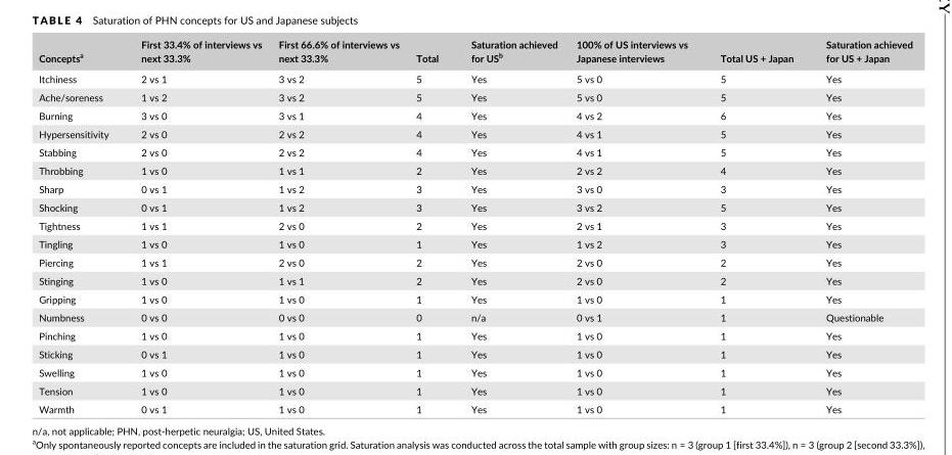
<table><thead><tr><td>Concepts<sup>a</sup></td><td>First 33.4% of interviews vs next 33.3%</td><td>First 66.6% of interviews vs next 33.3%</td><td>Total</td><td>Saturation achieved for US<sup>b</sup></td><td>100% of US interviews vs Japanese interviews</td><td>Total US + Japan</td><td>Saturation achieved for US + Japan</td></tr></thead><tbody><tr><td>Itchiness</td><td>2 vs 1</td><td>3 vs 2</td><td>5</td><td>Yes</td><td>5 vs 0</td><td>5</td><td>Yes</td></tr><tr><td>Ache/soreness</td><td>1 vs 2</td><td>3 vs 2</td><td>5</td><td>Yes</td><td>5 vs 0</td><td>5</td><td>Yes</td></tr><tr><td>Burning</td><td>3 vs 0</td><td>3 vs 1</td><td>4</td><td>Yes</td><td>4 vs 2</td><td>6</td><td>Yes</td></tr><tr><td>Hypersensitivity</td><td>2 vs 0</td><td>2 vs 2</td><td>4</td><td>Yes</td><td>4 vs 1</td><td>5</td><td>Yes</td></tr><tr><td>Stabbing</td><td>2 vs 0</td><td>2 vs 2</td><td>4</td><td>Yes</td><td>4 vs 1</td><td>5</td><td>Yes</td></tr><tr><td>Throbbing</td><td>1 vs 0</td><td>1 vs 1</td><td>2</td><td>Yes</td><td>2 vs 2</td><td>4</td><td>Yes</td></tr><tr><td>Sharp</td><td>0 vs 1</td><td>1 vs 2</td><td>3</td><td>Yes</td><td>3 vs 0</td><td>3</td><td>Yes</td></tr><tr><td>Shocking</td><td>0 vs 1</td><td>1 vs 2</td><td>3</td><td>Yes</td><td>3 vs 2</td><td>5</td><td>Yes</td></tr><tr><td>Tightness</td><td>1 vs 1</td><td>2 vs 0</td><td>2</td><td>Yes</td><td>2 vs 1</td><td>3</td><td>Yes</td></tr><tr><td>Tingling</td><td>1 vs 0</td><td>1 vs 0</td><td>1</td><td>Yes</td><td>1 vs 2</td><td>3</td><td>Yes</td></tr><tr><td>Piercing</td><td>1 vs 1</td><td>2 vs 0</td><td>2</td><td>Yes</td><td>2 vs 0</td><td>2</td><td>Yes</td></tr><tr><td>Stinging</td><td>1 vs 0</td><td>1 vs 1</td><td>2</td><td>Yes</td><td>2 vs 0</td><td>2</td><td>Yes</td></tr><tr><td>Gripping</td><td>1 vs 0</td><td>1 vs 0</td><td>1</td><td>Yes</td><td>1 vs 0</td><td>1</td><td>Yes</td></tr><tr><td>Numbness</td><td>0 vs 0</td><td>0 vs 0</td><td>0</td><td>n/a</td><td>0 vs 1</td><td>1</td><td>Questionable</td></tr><tr><td>Pinching</td><td>1 vs 0</td><td>1 vs 0</td><td>1</td><td>Yes</td><td>1 vs 0</td><td>1</td><td>Yes</td></tr><tr><td>Sticking</td><td>0 vs 1</td><td>1 vs 0</td><td>1</td><td>Yes</td><td>1 vs 0</td><td>1</td><td>Yes</td></tr><tr><td>Swelling</td><td>1 vs 0</td><td>1 vs 0</td><td>1</td><td>Yes</td><td>1 vs 0</td><td>1</td><td>Yes</td></tr><tr><td>Tension</td><td>1 vs 0</td><td>1 vs 0</td><td>1</td><td>Yes</td><td>1 vs 0</td><td>1</td><td>Yes</td></tr><tr><td>Warmth</td><td>0 vs 1</td><td>1 vs 0</td><td>1</td><td>Yes</td><td>1 vs 0</td><td>1</td><td>Yes</td></tr></tbody></table>